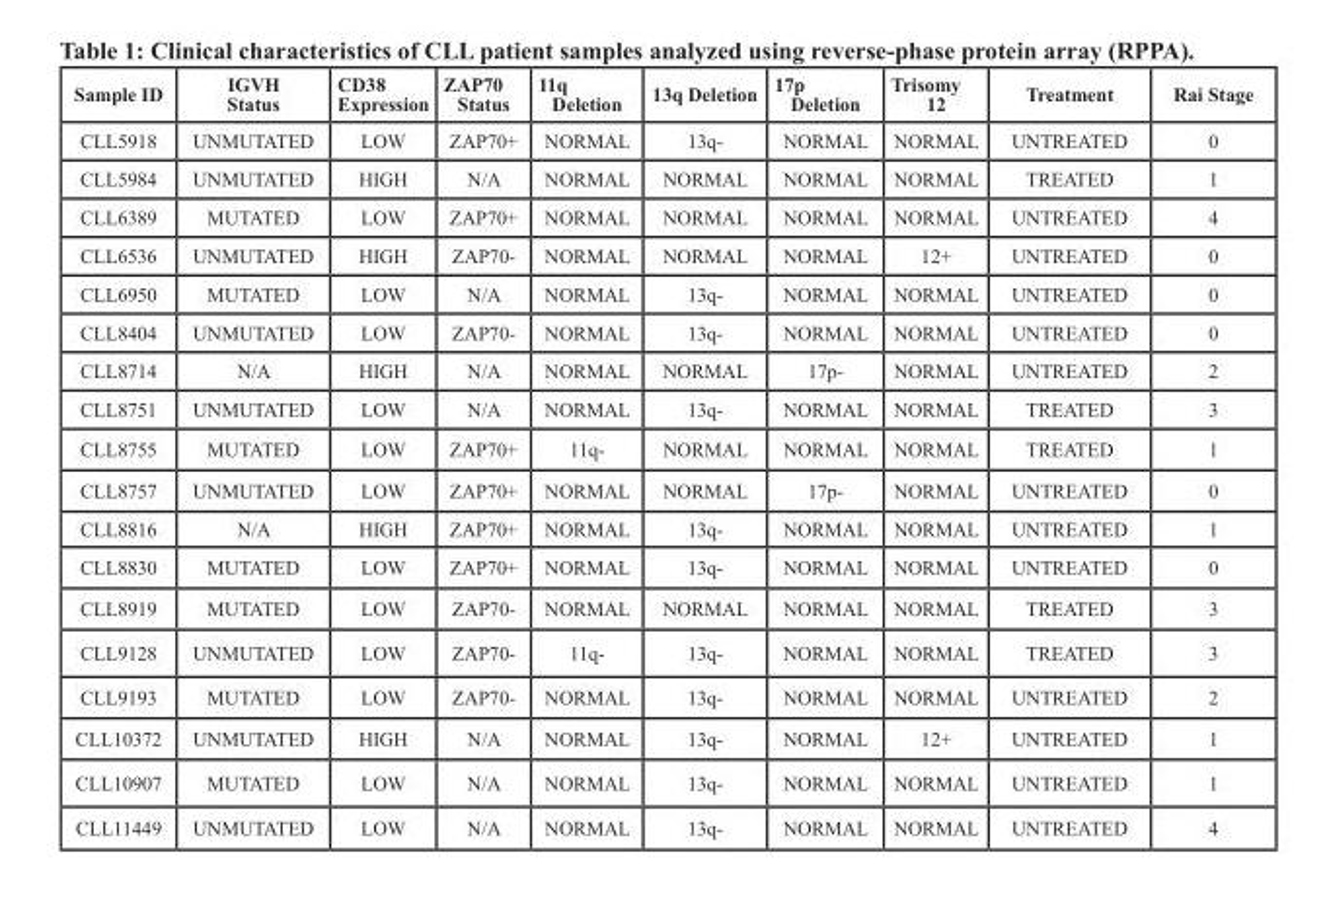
<table><thead><tr><td>Sample ID</td><td>IGVH Status</td><td>CD38 Expression</td><td>ZAP70 Status</td><td>11q Deletion</td><td>13q Deletion</td><td>17p Deletion</td><td>Trisomy 12</td><td>Treatment</td><td>Rai Stage</td></tr></thead><tbody><tr><td>CLL5918</td><td>UNMUTATED</td><td>LOW</td><td>ZAP70+</td><td>NORMAL</td><td>13q-</td><td>NORMAL</td><td>NORMAL</td><td>UNTREATED</td><td>0</td></tr><tr><td>CLL5984</td><td>UNMUTATED</td><td>HIGH</td><td>N/A</td><td>NORMAL</td><td>NORMAL</td><td>NORMAL</td><td>NORMAL</td><td>TREATED</td><td>1</td></tr><tr><td>CLL6389</td><td>MUTATED</td><td>LOW</td><td>ZAP70+</td><td>NORMAL</td><td>NORMAL</td><td>NORMAL</td><td>NORMAL</td><td>UNTREATED</td><td>4</td></tr><tr><td>CLL6536</td><td>UNMUTATED</td><td>HIGH</td><td>ZAP70-</td><td>NORMAL</td><td>NORMAL</td><td>NORMAL</td><td>12+</td><td>UNTREATED</td><td>0</td></tr><tr><td>CLL6950</td><td>MUTATED</td><td>LOW</td><td>N/A</td><td>NORMAL</td><td>13q-</td><td>NORMAL</td><td>NORMAL</td><td>UNTREATED</td><td>0</td></tr><tr><td>CLL8404</td><td>UNMUTATED</td><td>LOW</td><td>ZAP70-</td><td>NORMAL</td><td>13q-</td><td>NORMAL</td><td>NORMAL</td><td>UNTREATED</td><td>0</td></tr><tr><td>CLL8714</td><td>N/A</td><td>HIGH</td><td>N/A</td><td>NORMAL</td><td>NORMAL</td><td>17p-</td><td>NORMAL</td><td>UNTREATED</td><td>2</td></tr><tr><td>CLL8751</td><td>UNMUTATED</td><td>LOW</td><td>N/A</td><td>NORMAL</td><td>13q-</td><td>NORMAL</td><td>NORMAL</td><td>TREATED</td><td>3</td></tr><tr><td>CLL8755</td><td>MUTATED</td><td>LOW</td><td>ZAP70+</td><td>11q-</td><td>NORMAL</td><td>NORMAL</td><td>NORMAL</td><td>TREATED</td><td>1</td></tr><tr><td>CLL8757</td><td>UNMUTATED</td><td>LOW</td><td>ZAP70+</td><td>NORMAL</td><td>NORMAL</td><td>17p-</td><td>NORMAL</td><td>UNTREATED</td><td>0</td></tr><tr><td>CLL8816</td><td>N/A</td><td>HIGH</td><td>ZAP70+</td><td>NORMAL</td><td>13q-</td><td>NORMAL</td><td>NORMAL</td><td>UNTREATED</td><td>1</td></tr><tr><td>CLL8830</td><td>MUTATED</td><td>LOW</td><td>ZAP70+</td><td>NORMAL</td><td>13q-</td><td>NORMAL</td><td>NORMAL</td><td>UNTREATED</td><td>0</td></tr><tr><td>CLL8919</td><td>MUTATED</td><td>LOW</td><td>ZAP70-</td><td>NORMAL</td><td>NORMAL</td><td>NORMAL</td><td>NORMAL</td><td>TREATED</td><td>3</td></tr><tr><td>CLL9128</td><td>UNMUTATED</td><td>LOW</td><td>ZAP70-</td><td>11q-</td><td>13q-</td><td>NORMAL</td><td>NORMAL</td><td>TREATED</td><td>3</td></tr><tr><td>CLL9193</td><td>MUTATED</td><td>LOW</td><td>ZAP70-</td><td>NORMAL</td><td>13q-</td><td>NORMAL</td><td>NORMAL</td><td>UNTREATED</td><td>2</td></tr><tr><td>CLL10372</td><td>UNMUTATED</td><td>HIGH</td><td>N/A</td><td>NORMAL</td><td>13q-</td><td>NORMAL</td><td>12+</td><td>UNTREATED</td><td>1</td></tr><tr><td>CLL10907</td><td>MUTATED</td><td>LOW</td><td>N/A</td><td>NORMAL</td><td>13q-</td><td>NORMAL</td><td>NORMAL</td><td>UNTREATED</td><td>1</td></tr><tr><td>CLL11449</td><td>UNMUTATED</td><td>LOW</td><td>N/A</td><td>NORMAL</td><td>13q-</td><td>NORMAL</td><td>NORMAL</td><td>UNTREATED</td><td>4</td></tr></tbody></table>